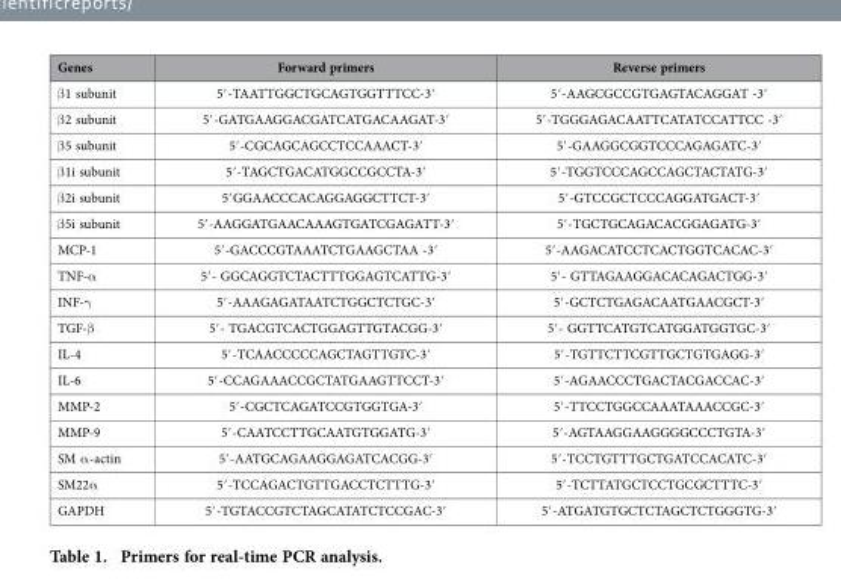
<table><thead><tr><td>Genes</td><td>Forward primers</td><td>Reverse primers</td></tr></thead><tbody><tr><td>β 1 subunit</td><td>5′ -TAATTGGCTGCAGTGGTTTCC-3′</td><td>5′ -AAGCGCCGTGAGTACAGGAT -3′</td></tr><tr><td>β 2 subunit</td><td>5′ -GATGAAGGACGATCATGACAAGAT-3′</td><td>5′ -TGGGAGACAATTCATATCCATTCC -3′</td></tr><tr><td>β 5 subunit</td><td>5′ -CGCAGCAGCCTCCAAACT-3′</td><td>5′ -GAAGGCGGTCCCAGAGATC-3′</td></tr><tr><td>β 1i subunit</td><td>5′ -TAGCTGACATGGCCGCCTA-3′</td><td>5′ -TGGTCCCAGCCAGCTACTATG-3′</td></tr><tr><td>β 2i subunit</td><td>5′ GGAACCCACAGGAGGCTTCT-3′</td><td>5′ -GTCCGCTCCCAGGATGACT-3′</td></tr><tr><td>β 5i subunit</td><td>5′ -AAGGATGAACAAAGTGATCGAGATT-3′</td><td>5′ -TGCTGCAGACACGGAGATG-3′</td></tr><tr><td>MCP-1</td><td>5′ -GACCCGTAAATCTGAAGCTAA -3′</td><td>5′ -AAGACATCCTCACTGGTCACAC-3′</td></tr><tr><td>TNF-α</td><td>5′ - GGCAGGTCTACTTTGGAGTCATTG-3′</td><td>5′ - GTTAGAAGGACACAGACTGG-3′</td></tr><tr><td>INF-γ</td><td>5′ -AAAGAGATAATCTGGCTCTGC-3′</td><td>5′ -GCTCTGAGACAATGAACGCT-3′</td></tr><tr><td>TGF-β</td><td>5′ - TGACGTCACTGGAGTTGTACGG-3′</td><td>5′ - GGTTCATGTCATGGATGGTGC-3′</td></tr><tr><td>IL-4</td><td>5′ -TCAACCCCCAGCTAGTTGTC-3′</td><td>5′ -TGTTCTTCGTTGCTGTGAGG-3′</td></tr><tr><td>IL-6</td><td>5′ -CCAGAAACCGCTATGAAGTTCCT-3′</td><td>5′ -AGAACCCTGACTACGACCAC-3′</td></tr><tr><td>MMP-2</td><td>5′ -CGCTCAGATCCGTGGTGA-3′</td><td>5′ -TTCCTGGCCAAATAAACCGC-3′</td></tr><tr><td>MMP-9</td><td>5′ -CAATCCTTGCAATGTGGATG-3′</td><td>5′ -AGTAAGGAAGGGGCCCTGTA-3′</td></tr><tr><td>SM α -actin</td><td>5′ -AATGCAGAAGGAGATCACGG-3′</td><td>5′ -TCCTGTTTGCTGATCCACATC-3′</td></tr><tr><td>SM22α</td><td>5′ -TCCAGACTGTTGACCTCTTTG-3′</td><td>5′ -TCTTATGCTCCTGCGCTTTC-3′</td></tr><tr><td>GAPDH</td><td>5′ -TGTACCGTCTAGCATATCTCCGAC-3′</td><td>5′ -ATGATGTGCTCTAGCTCTGGGTG-3′</td></tr></tbody></table>